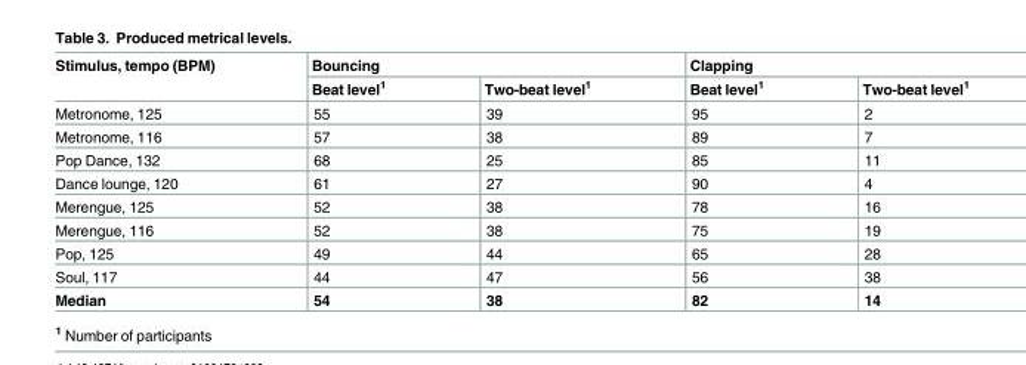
<table><thead><tr><td rowspan="2">Stimulus, tempo (BPM)</td><td colspan="2">Bouncing</td><td colspan="2">Clapping</td></tr><tr><td>Beat level<sup>1</sup></td><td>Two-beat level<sup>1</sup></td><td>Beat level<sup>1</sup></td><td>Two-beat level<sup>1</sup></td></tr></thead><tbody><tr><td>Metronome, 125</td><td>55</td><td>39</td><td>95</td><td>2</td></tr><tr><td>Metronome, 116</td><td>57</td><td>38</td><td>89</td><td>7</td></tr><tr><td>Pop Dance, 132</td><td>68</td><td>25</td><td>85</td><td>11</td></tr><tr><td>Dance lounge, 120</td><td>61</td><td>27</td><td>90</td><td>4</td></tr><tr><td>Merengue, 125</td><td>52</td><td>38</td><td>78</td><td>16</td></tr><tr><td>Merengue, 116</td><td>52</td><td>38</td><td>75</td><td>19</td></tr><tr><td>Pop, 125</td><td>49</td><td>44</td><td>65</td><td>28</td></tr><tr><td>Soul, 117</td><td>44</td><td>47</td><td>56</td><td>38</td></tr><tr><td>Median</td><td>54</td><td>38</td><td>82</td><td>14</td></tr></tbody></table>